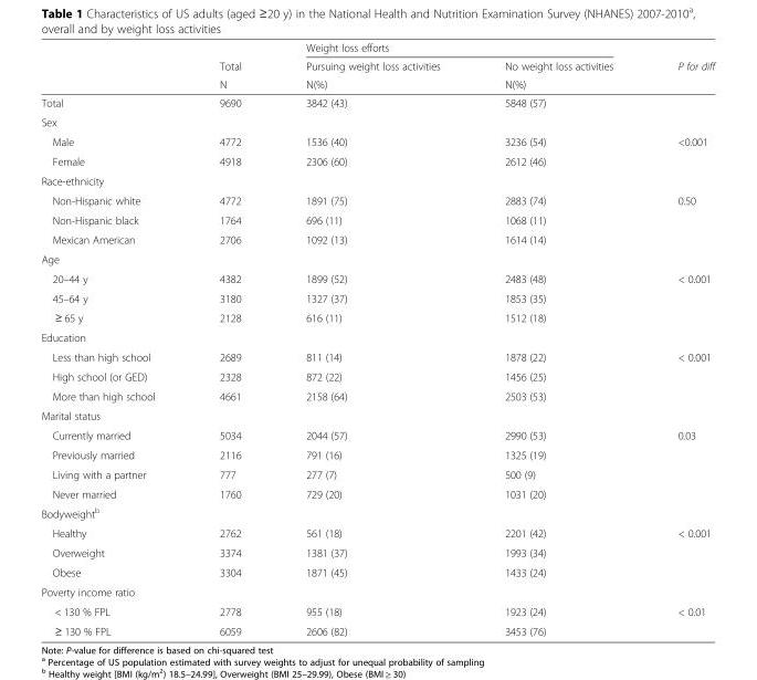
<table><thead><tr><td rowspan="3"></td><td rowspan="3">Total N</td><td colspan="2">Weight loss efforts</td><td rowspan="3">P for diff</td></tr><tr><td rowspan="2">Pursuing weight loss activities N(%)</td><td rowspan="2">No weight loss activities N(%)</td></tr><tr></tr></thead><tbody><tr><td>Total</td><td>9690</td><td>3842 (43)</td><td>5848 (57)</td><td></td></tr><tr><td colspan="5">Sex</td></tr><tr><td>Male</td><td>4772</td><td>1536 (40)</td><td>3236 (54)</td><td>&lt;0.001</td></tr><tr><td>Female</td><td>4918</td><td>2306 (60)</td><td>2612 (46)</td><td></td></tr><tr><td colspan="5">Race-ethnicity</td></tr><tr><td>Non-Hispanic white</td><td>4772</td><td>1891 (75)</td><td>2883 (74)</td><td>0.50</td></tr><tr><td>Non-Hispanic black</td><td>1764</td><td>696 (11)</td><td>1068 (11)</td><td></td></tr><tr><td>Mexican American</td><td>2706</td><td>1092 (13)</td><td>1614 (14)</td><td></td></tr><tr><td colspan="5">Age</td></tr><tr><td>20–44 y</td><td>4382</td><td>1899 (52)</td><td>2483 (48)</td><td>&lt; 0.001</td></tr><tr><td>45–64 y</td><td>3180</td><td>1327 (37)</td><td>1853 (35)</td><td></td></tr><tr><td>≥ 65 y</td><td>2128</td><td>616 (11)</td><td>1512 (18)</td><td></td></tr><tr><td colspan="5">Education</td></tr><tr><td>Less than high school</td><td>2689</td><td>811 (14)</td><td>1878 (22)</td><td>&lt; 0.001</td></tr><tr><td>High school (or GED)</td><td>2328</td><td>872 (22)</td><td>1456 (25)</td><td></td></tr><tr><td>More than high school</td><td>4661</td><td>2158 (64)</td><td>2503 (53)</td><td></td></tr><tr><td colspan="5">Marital status</td></tr><tr><td>Currently married</td><td>5034</td><td>2044 (57)</td><td>2990 (53)</td><td>0.03</td></tr><tr><td>Previously married</td><td>2116</td><td>791 (16)</td><td>1325 (19)</td><td></td></tr><tr><td>Living with a partner</td><td>777</td><td>277 (7)</td><td>500 (9)</td><td></td></tr><tr><td>Never married</td><td>1760</td><td>729 (20)</td><td>1031 (20)</td><td></td></tr><tr><td colspan="5">Bodyweight<sup>b</sup></td></tr><tr><td>Healthy</td><td>2762</td><td>561 (18)</td><td>2201 (42)</td><td>&lt; 0.001</td></tr><tr><td>Overweight</td><td>3374</td><td>1381 (37)</td><td>1993 (34)</td><td></td></tr><tr><td>Obese</td><td>3304</td><td>1871 (45)</td><td>1433 (24)</td><td></td></tr><tr><td colspan="5">Poverty income ratio</td></tr><tr><td>&lt; 130 % FPL</td><td>2778</td><td>955 (18)</td><td>1923 (24)</td><td>&lt; 0.01</td></tr><tr><td>≥ 130 % FPL</td><td>6059</td><td>2606 (82)</td><td>3453 (76)</td><td></td></tr></tbody></table>